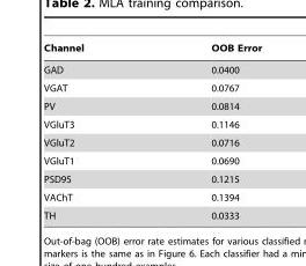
<table><thead><tr><td>Channel</td><td>OOB Error</td></tr></thead><tbody><tr><td>GAD</td><td>0.0400</td></tr><tr><td>VGAT</td><td>0.0767</td></tr><tr><td>PV</td><td>0.0814</td></tr><tr><td>VGluT3</td><td>0.1146</td></tr><tr><td>VGluT2</td><td>0.0716</td></tr><tr><td>VGluT1</td><td>0.0690</td></tr><tr><td>PSD95</td><td>0.1215</td></tr><tr><td>VAChT</td><td>0.1394</td></tr><tr><td>TH</td><td>0.0333</td></tr></tbody></table>